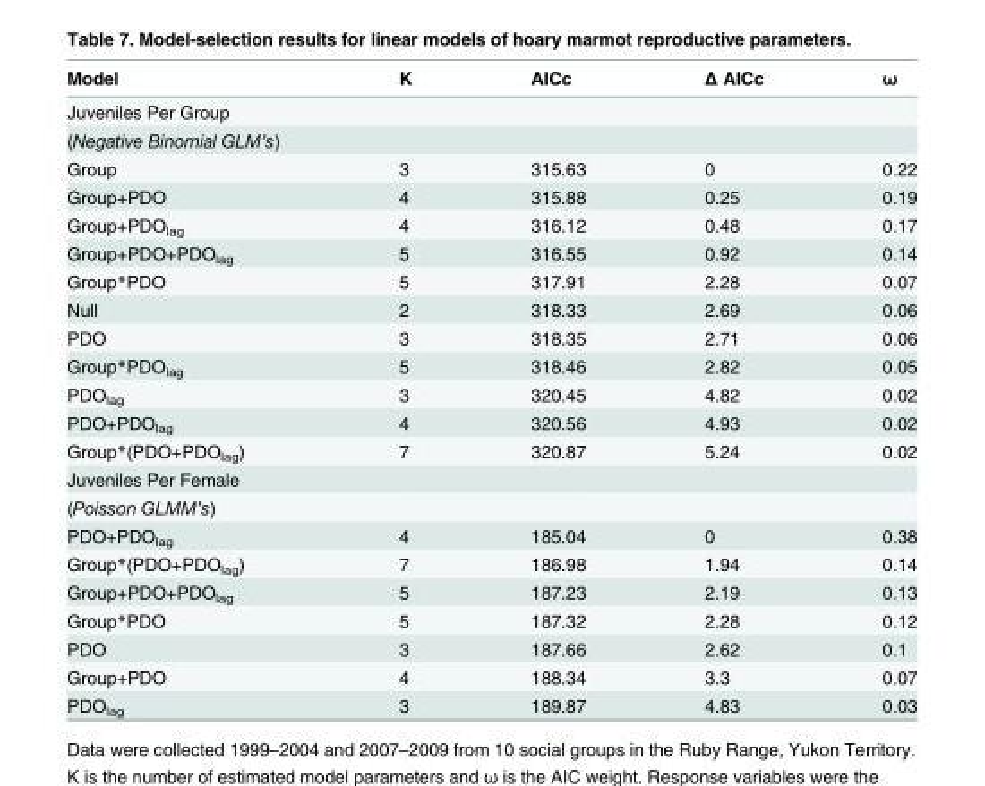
<table><thead><tr><td>Model</td><td>K</td><td>AICc</td><td>Δ AICc</td><td>ω</td></tr></thead><tbody><tr><td colspan="5">Juveniles Per Group</td></tr><tr><td colspan="5">(Negative Binomial GLM’s)</td></tr><tr><td>Group</td><td>3</td><td>315.63</td><td>0</td><td>0.22</td></tr><tr><td>Group+PDO</td><td>4</td><td>315.88</td><td>0.25</td><td>0.19</td></tr><tr><td>Group+PDO<sub>lag</sub></td><td>4</td><td>316.12</td><td>0.48</td><td>0.17</td></tr><tr><td>Group+PDO+PDO<sub>lag</sub></td><td>5</td><td>316.55</td><td>0.92</td><td>0.14</td></tr><tr><td>Group*PDO</td><td>5</td><td>317.91</td><td>2.28</td><td>0.07</td></tr><tr><td>Null</td><td>2</td><td>318.33</td><td>2.69</td><td>0.06</td></tr><tr><td>PDO</td><td>3</td><td>318.35</td><td>2.71</td><td>0.06</td></tr><tr><td>Group*PDO<sub>lag</sub></td><td>5</td><td>318.46</td><td>2.82</td><td>0.05</td></tr><tr><td>PDO<sub>lag</sub></td><td>3</td><td>320.45</td><td>4.82</td><td>0.02</td></tr><tr><td>PDO+PDO<sub>lag</sub></td><td>4</td><td>320.56</td><td>4.93</td><td>0.02</td></tr><tr><td>Group*(PDO+PDO<sub>lag</sub>)</td><td>7</td><td>320.87</td><td>5.24</td><td>0.02</td></tr><tr><td colspan="5">Juveniles Per Female</td></tr><tr><td colspan="5">(Poisson GLMM’s)</td></tr><tr><td>PDO+PDO<sub>lag</sub></td><td>4</td><td>185.04</td><td>0</td><td>0.38</td></tr><tr><td>Group*(PDO+PDO<sub>lag</sub>)</td><td>7</td><td>186.98</td><td>1.94</td><td>0.14</td></tr><tr><td>Group+PDO+PDO<sub>lag</sub></td><td>5</td><td>187.23</td><td>2.19</td><td>0.13</td></tr><tr><td>Group*PDO</td><td>5</td><td>187.32</td><td>2.28</td><td>0.12</td></tr><tr><td>PDO</td><td>3</td><td>187.66</td><td>2.62</td><td>0.1</td></tr><tr><td>Group+PDO</td><td>4</td><td>188.34</td><td>3.3</td><td>0.07</td></tr><tr><td>PDO<sub>lag</sub></td><td>3</td><td>189.87</td><td>4.83</td><td>0.03</td></tr></tbody></table>